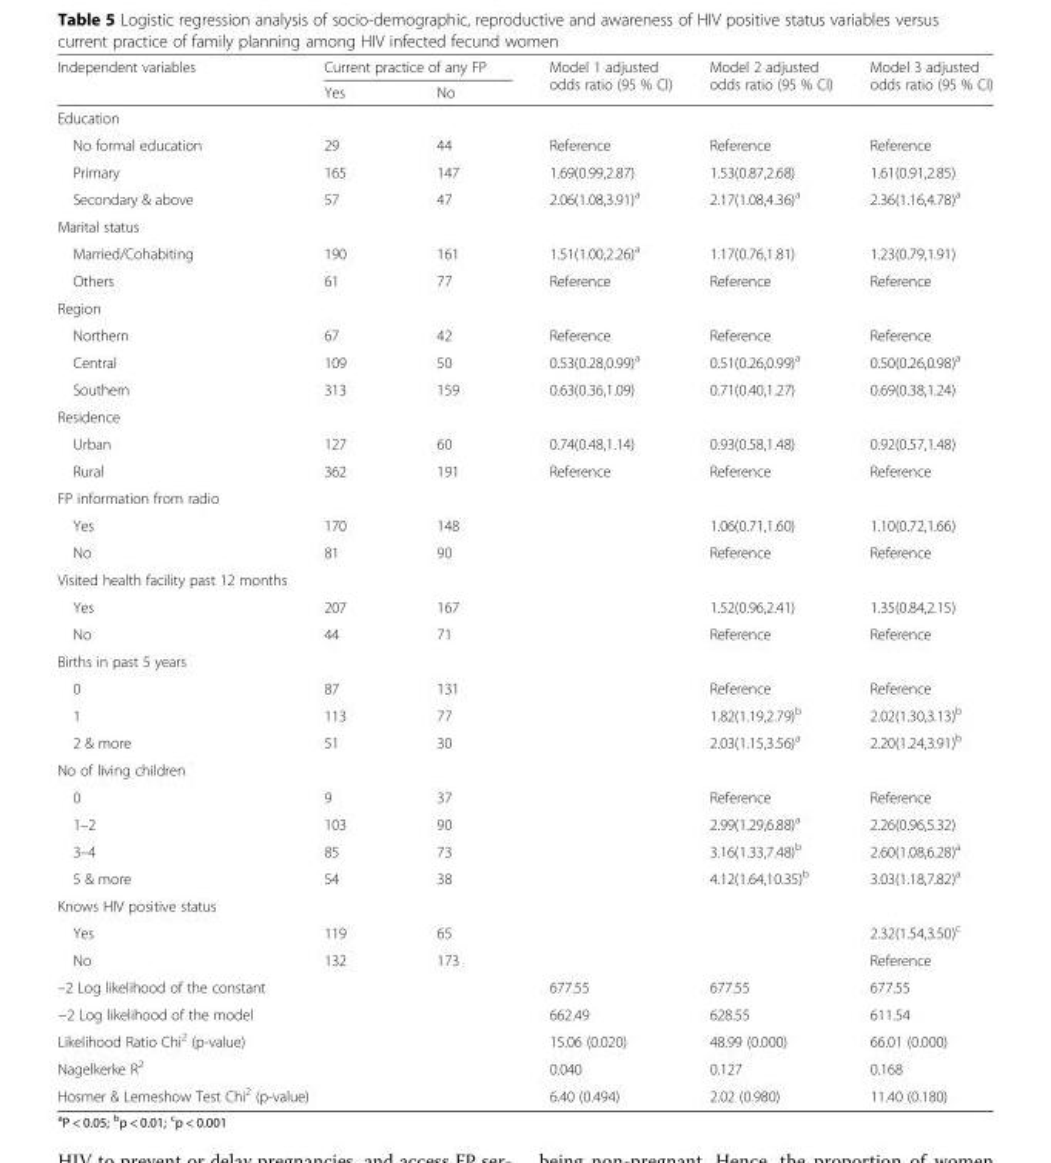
<table><thead><tr><td rowspan="2">Independent variables</td><td colspan="2">Current practice of any FP</td><td rowspan="2">Model 1 adjusted odds ratio (95 % CI)</td><td rowspan="2">Model 2 adjusted odds ratio (95 % CI)</td><td rowspan="2">Model 3 adjusted odds ratio (95 % CI)</td></tr><tr><td>Yes</td><td>No</td></tr></thead><tbody><tr><td colspan="6">Education</td></tr><tr><td>No formal education</td><td>29</td><td>44</td><td>Reference</td><td>Reference</td><td>Reference</td></tr><tr><td>Primary</td><td>165</td><td>147</td><td>1.69(0.99,2.87)</td><td>1.53(0.87,2.68)</td><td>1.61(0.91,2.85)</td></tr><tr><td>Secondary &amp; above</td><td>57</td><td>47</td><td>2.06(1.08,3.91)<sup>a</sup></td><td>2.17(1.08,4.36)<sup>a</sup></td><td>2.36(1.16,4.78)<sup>a</sup></td></tr><tr><td colspan="6">Marital status</td></tr><tr><td>Married/Cohabiting</td><td>190</td><td>161</td><td>1.51(1.00,2.26)<sup>a</sup></td><td>1.17(0.76,1.81)</td><td>1.23(0.79,1.91)</td></tr><tr><td>Others</td><td>61</td><td>77</td><td>Reference</td><td>Reference</td><td>Reference</td></tr><tr><td colspan="6">Region</td></tr><tr><td>Northern</td><td>67</td><td>42</td><td>Reference</td><td>Reference</td><td>Reference</td></tr><tr><td>Central</td><td>109</td><td>50</td><td>0.53(0.28,0.99)<sup>a</sup></td><td>0.51(0.26,0.99)<sup>a</sup></td><td>0.50(0.26,0.98)<sup>a</sup></td></tr><tr><td>Southern</td><td>313</td><td>159</td><td>0.63(0.36,1.09)</td><td>0.71(0.40,1.27)</td><td>0.69(0.38,1.24)</td></tr><tr><td colspan="6">Residence</td></tr><tr><td>Urban</td><td>127</td><td>60</td><td>0.74(0.48,1.14)</td><td>0.93(0.58,1.48)</td><td>0.92(0.57,1.48)</td></tr><tr><td>Rural</td><td>362</td><td>191</td><td>Reference</td><td>Reference</td><td>Reference</td></tr><tr><td colspan="6">FP information from radio</td></tr><tr><td>Yes</td><td>170</td><td>148</td><td></td><td>1.06(0.71,1.60)</td><td>1.10(0.72,1.66)</td></tr><tr><td>No</td><td>81</td><td>90</td><td></td><td>Reference</td><td>Reference</td></tr><tr><td colspan="6">Visited health facility past 12 months</td></tr><tr><td>Yes</td><td>207</td><td>167</td><td></td><td>1.52(0.96,2.41)</td><td>1.35(0.84,2.15)</td></tr><tr><td>No</td><td>44</td><td>71</td><td></td><td>Reference</td><td>Reference</td></tr><tr><td colspan="6">Births in past 5 years</td></tr><tr><td>0</td><td>87</td><td>131</td><td></td><td>Reference</td><td>Reference</td></tr><tr><td>1</td><td>113</td><td>77</td><td></td><td>1.82(1.19,2.79)<sup>b</sup></td><td>2.02(1.30,3.13)<sup>b</sup></td></tr><tr><td>2 &amp; more</td><td>51</td><td>30</td><td></td><td>2.03(1.15,3.56)<sup>a</sup></td><td>2.20(1.24,3.91)<sup>b</sup></td></tr><tr><td colspan="6">No of living children</td></tr><tr><td>0</td><td>9</td><td>37</td><td></td><td>Reference</td><td>Reference</td></tr><tr><td>1–2</td><td>103</td><td>90</td><td></td><td>2.99(1.29,6.88)<sup>a</sup></td><td>2.26(0.96,5.32)</td></tr><tr><td>3–4</td><td>85</td><td>73</td><td></td><td>3.16(1.33,7.48)<sup>b</sup></td><td>2.60(1.08,6.28)<sup>a</sup></td></tr><tr><td>5 &amp; more</td><td>54</td><td>38</td><td></td><td>4.12(1.64,10.35)<sup>b</sup></td><td>3.03(1.18,7.82)<sup>a</sup></td></tr><tr><td colspan="6">Knows HIV positive status</td></tr><tr><td>Yes</td><td>119</td><td>65</td><td></td><td></td><td>2.32(1.54,3.50)<sup>c</sup></td></tr><tr><td>No</td><td>132</td><td>173</td><td></td><td></td><td>Reference</td></tr><tr><td colspan="3">–2 Log likelihood of the constant</td><td>677.55</td><td>677.55</td><td>677.55</td></tr><tr><td colspan="3">−2 Log likelihood of the model</td><td>662.49</td><td>628.55</td><td>611.54</td></tr><tr><td colspan="3">Likelihood Ratio Chi<sup>2</sup> (p-value)</td><td>15.06 (0.020)</td><td>48.99 (0.000)</td><td>66.01 (0.000)</td></tr><tr><td colspan="3">Nagelkerke R<sup>2</sup></td><td>0.040</td><td>0.127</td><td>0.168</td></tr><tr><td colspan="3">Hosmer &amp; Lemeshow Test Chi<sup>2</sup> (p-value)</td><td>6.40 (0.494)</td><td>2.02 (0.980)</td><td>11.40 (0.180)</td></tr></tbody></table>